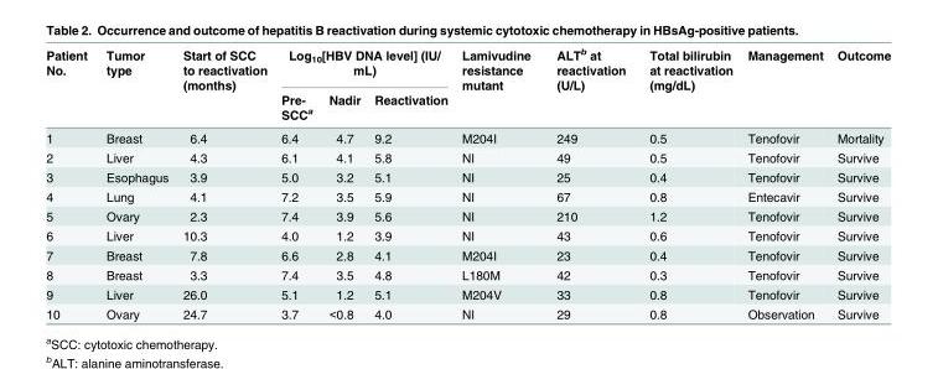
<table><thead><tr><td rowspan="2">Patient No.</td><td rowspan="2">Tumor type</td><td rowspan="2">Start of SCC to reactivation (months)</td><td colspan="3">Log<sub>10</sub>[HBV DNA level] (IU/ mL)</td><td rowspan="2">Lamivudine resistance mutant</td><td rowspan="2">ALT<sup>b</sup> at reactivation (U/L)</td><td rowspan="2">Total bilirubin at reactivation (mg/dL)</td><td rowspan="2">Management</td><td rowspan="2">Outcome</td></tr><tr><td>Pre- SCC<sup>a</sup></td><td>Nadir</td><td>Reactivation</td></tr></thead><tbody><tr><td>1</td><td>Breast</td><td>6.4</td><td>6.4</td><td>4.7</td><td>9.2</td><td>M204I</td><td>249</td><td>0.5</td><td>Tenofovir</td><td>Mortality</td></tr><tr><td>2</td><td>Liver</td><td>4.3</td><td>6.1</td><td>4.1</td><td>5.8</td><td>NI</td><td>49</td><td>0.5</td><td>Tenofovir</td><td>Survive</td></tr><tr><td>3</td><td>Esophagus</td><td>3.9</td><td>5.0</td><td>3.2</td><td>5.1</td><td>NI</td><td>25</td><td>0.4</td><td>Tenofovir</td><td>Survive</td></tr><tr><td>4</td><td>Lung</td><td>4.1</td><td>7.2</td><td>3.5</td><td>5.9</td><td>NI</td><td>67</td><td>0.8</td><td>Entecavir</td><td>Survive</td></tr><tr><td>5</td><td>Ovary</td><td>2.3</td><td>7.4</td><td>3.9</td><td>5.6</td><td>NI</td><td>210</td><td>1.2</td><td>Tenofovir</td><td>Survive</td></tr><tr><td>6</td><td>Liver</td><td>10.3</td><td>4.0</td><td>1.2</td><td>3.9</td><td>NI</td><td>43</td><td>0.6</td><td>Tenofovir</td><td>Survive</td></tr><tr><td>7</td><td>Breast</td><td>7.8</td><td>6.6</td><td>2.8</td><td>4.1</td><td>M204I</td><td>23</td><td>0.4</td><td>Tenofovir</td><td>Survive</td></tr><tr><td>8</td><td>Breast</td><td>3.3</td><td>7.4</td><td>3.5</td><td>4.8</td><td>L180M</td><td>42</td><td>0.3</td><td>Tenofovir</td><td>Survive</td></tr><tr><td>9</td><td>Liver</td><td>26.0</td><td>5.1</td><td>1.2</td><td>5.1</td><td>M204V</td><td>33</td><td>0.8</td><td>Tenofovir</td><td>Survive</td></tr><tr><td>10</td><td>Ovary</td><td>24.7</td><td>3.7</td><td>&lt;0.8</td><td>4.0</td><td>NI</td><td>29</td><td>0.8</td><td>Observation</td><td>Survive</td></tr></tbody></table>